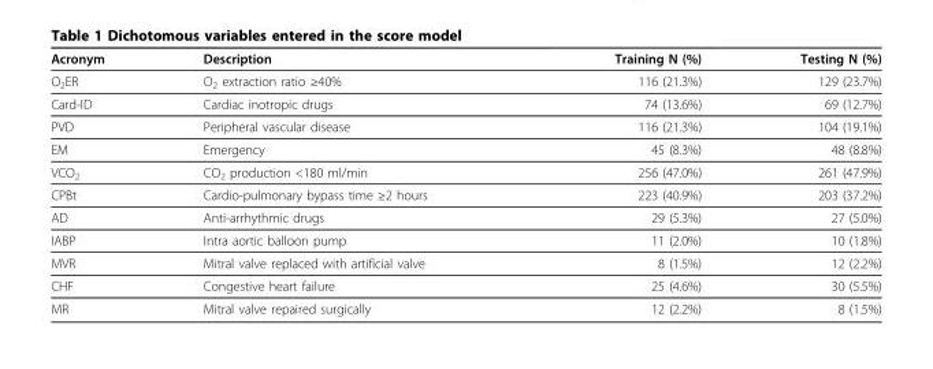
<table><thead><tr><td>Acronym</td><td>Description</td><td>Training N (%)</td><td>Testing N (%)</td></tr></thead><tbody><tr><td>O<sub>2</sub>ER</td><td>O<sub>2</sub> extraction ratio ≥40%</td><td>116 (21.3%)</td><td>129 (23.7%)</td></tr><tr><td>Card-ID</td><td>Cardiac inotropic drugs</td><td>74 (13.6%)</td><td>69 (12.7%)</td></tr><tr><td>PVD</td><td>Peripheral vascular disease</td><td>116 (21.3%)</td><td>104 (19.1%)</td></tr><tr><td>EM</td><td>Emergency</td><td>45 (8.3%)</td><td>48 (8.8%)</td></tr><tr><td>VCO<sub>2</sub></td><td>CO<sub>2</sub> production &lt;180 ml/min</td><td>256 (47.0%)</td><td>261 (47.9%)</td></tr><tr><td>CPBt</td><td>Cardio-pulmonary bypass time ≥2 hours</td><td>223 (40.9%)</td><td>203 (37.2%)</td></tr><tr><td>AD</td><td>Anti-arrhythmic drugs</td><td>29 (5.3%)</td><td>27 (5.0%)</td></tr><tr><td>IABP</td><td>Intra aortic balloon pump</td><td>11 (2.0%)</td><td>10 (1.8%)</td></tr><tr><td>MVR</td><td>Mitral valve replaced with artificial valve</td><td>8 (1.5%)</td><td>12 (2.2%)</td></tr><tr><td>CHF</td><td>Congestive heart failure</td><td>25 (4.6%)</td><td>30 (5.5%)</td></tr><tr><td>MR</td><td>Mitral valve repaired surgically</td><td>12 (2.2%)</td><td>8 (1.5%)</td></tr></tbody></table>